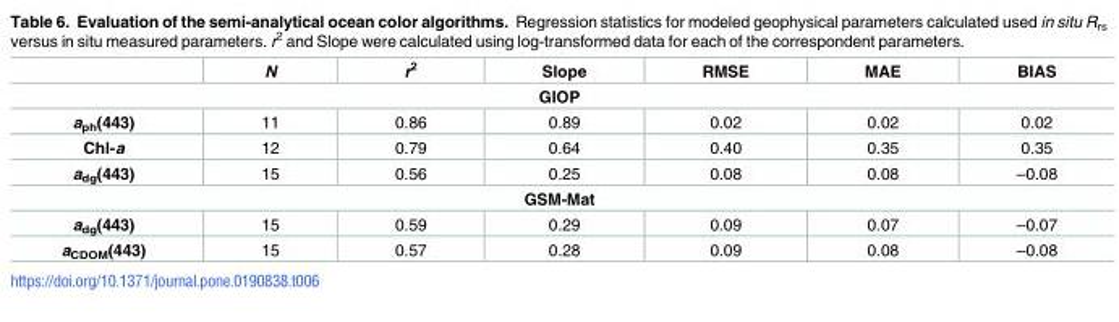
<table><thead><tr><td></td><td>N</td><td>r<sup>2</sup></td><td>Slope</td><td>RMSE</td><td>MAE</td><td>BIAS</td></tr></thead><tbody><tr><td colspan="7">GIOP</td></tr><tr><td>a<sub>ph</sub>(443)</td><td>11</td><td>0.86</td><td>0.89</td><td>0.02</td><td>0.02</td><td>0.02</td></tr><tr><td>Chl-a</td><td>12</td><td>0.79</td><td>0.64</td><td>0.40</td><td>0.35</td><td>0.35</td></tr><tr><td>a<sub>dg</sub>(443)</td><td>15</td><td>0.56</td><td>0.25</td><td>0.08</td><td>0.08</td><td>–0.08</td></tr><tr><td colspan="7">GSM-Mat</td></tr><tr><td>a<sub>dg</sub>(443)</td><td>15</td><td>0.59</td><td>0.29</td><td>0.09</td><td>0.07</td><td>–0.07</td></tr><tr><td>a<sub>CDOM</sub>(443)</td><td>15</td><td>0.57</td><td>0.28</td><td>0.09</td><td>0.08</td><td>–0.08</td></tr></tbody></table>